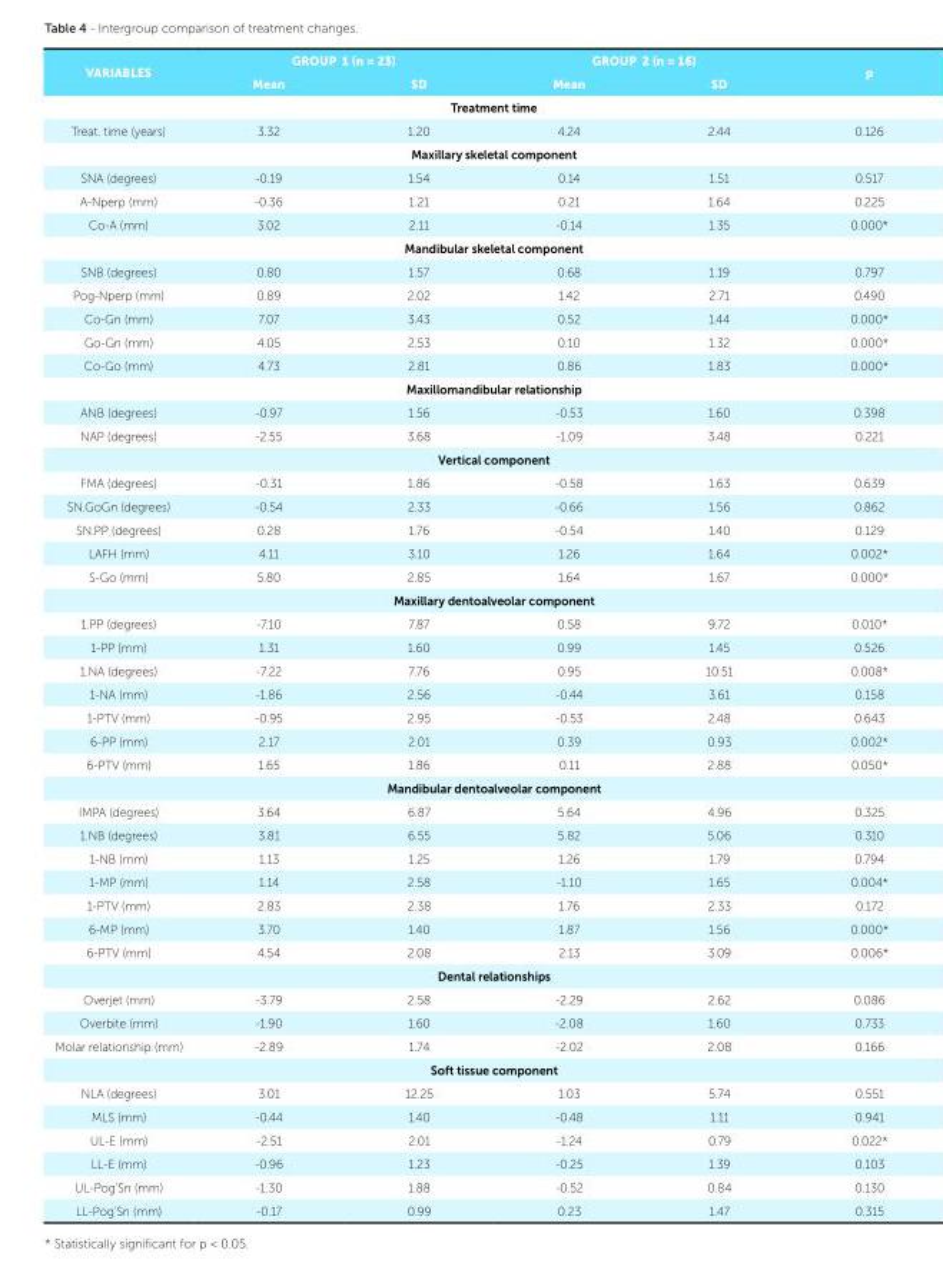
<table><tbody><tr><td rowspan="2">VARIABLES</td><td colspan="2">GROUP 1 (n = 23)</td><td colspan="2">GROUP 2 (n = 16)</td><td rowspan="2">p</td></tr><tr><td>Mean</td><td>SD</td><td>Mean</td><td>SD</td></tr><tr><td colspan="6">Treatment time</td></tr><tr><td>Treat. time (years)</td><td>3.32</td><td>1.20</td><td>4.24</td><td>2.44</td><td>0.126</td></tr><tr><td colspan="6">Maxillary skeletal component</td></tr><tr><td>SNA (degrees)</td><td>-0.19</td><td>1.54</td><td>0.14</td><td>1.51</td><td>0.517</td></tr><tr><td>A-Nperp (mm)</td><td>-0.36</td><td>1.21</td><td>0.21</td><td>1.64</td><td>0.225</td></tr><tr><td>Co-A (mm)</td><td>3.02</td><td>2.11</td><td>-0.14</td><td>1.35</td><td>0.000*</td></tr><tr><td colspan="6">Mandibular skeletal component</td></tr><tr><td>SNB (degrees)</td><td>0.80</td><td>1.57</td><td>0.68</td><td>1.19</td><td>0.797</td></tr><tr><td>Pog-Nperp (mm)</td><td>0.89</td><td>2.02</td><td>1.42</td><td>2.71</td><td>0.490</td></tr><tr><td>Co-Gn (mm)</td><td>7.07</td><td>3.43</td><td>0.52</td><td>1.44</td><td>0.000*</td></tr><tr><td>Go-Gn (mm)</td><td>4.05</td><td>2.53</td><td>0.10</td><td>1.32</td><td>0.000*</td></tr><tr><td>Co-Go (mm)</td><td>4.73</td><td>2.81</td><td>0.86</td><td>1.83</td><td>0.000*</td></tr><tr><td colspan="6">Maxillomandibular relationship</td></tr><tr><td>ANB (degrees)</td><td>-0.97</td><td>1.56</td><td>-0.53</td><td>1.60</td><td>0.398</td></tr><tr><td>NAP (degrees)</td><td>-2.55</td><td>3.68</td><td>-1.09</td><td>3.48</td><td>0.221</td></tr><tr><td colspan="6">Vertical component</td></tr><tr><td>FMA (degrees)</td><td>-0.31</td><td>1.86</td><td>-0.58</td><td>1.63</td><td>0.639</td></tr><tr><td>SN.GoGn (degrees)</td><td>-0.54</td><td>2.33</td><td>-0.66</td><td>1.56</td><td>0.862</td></tr><tr><td>SN.PP (degrees)</td><td>0.28</td><td>1.76</td><td>-0.54</td><td>1.40</td><td>0.129</td></tr><tr><td>LAFH (mm)</td><td>4.11</td><td>3.10</td><td>1.26</td><td>1.64</td><td>0.002*</td></tr><tr><td>S-Go (mm)</td><td>5.80</td><td>2.85</td><td>1.64</td><td>1.67</td><td>0.000*</td></tr><tr><td colspan="6">Maxillary dentoalveolar component</td></tr><tr><td>1.PP (degrees)</td><td>-7.10</td><td>7.87</td><td>0.58</td><td>9.72</td><td>0.010*</td></tr><tr><td>1-PP (mm)</td><td>1.31</td><td>1.60</td><td>0.99</td><td>1.45</td><td>0.526</td></tr><tr><td>1.NA (degrees)</td><td>-7.22</td><td>7.76</td><td>0.95</td><td>10.51</td><td>0.008*</td></tr><tr><td>1-NA (mm)</td><td>-1.86</td><td>2.56</td><td>-0.44</td><td>3.61</td><td>0.158</td></tr><tr><td>1-PTV (mm)</td><td>-0.95</td><td>2.95</td><td>-0.53</td><td>2.48</td><td>0.643</td></tr><tr><td>6-PP (mm)</td><td>2.17</td><td>2.01</td><td>0.39</td><td>0.93</td><td>0.002*</td></tr><tr><td>6-PTV (mm)</td><td>1.65</td><td>1.86</td><td>0.11</td><td>2.88</td><td>0.050*</td></tr><tr><td colspan="6">Mandibular dentoalveolar component</td></tr><tr><td>IMPA (degrees)</td><td>3.64</td><td>6.87</td><td>5.64</td><td>4.96</td><td>0.325</td></tr><tr><td>1.NB (degrees)</td><td>3.81</td><td>6.55</td><td>5.82</td><td>5.06</td><td>0.310</td></tr><tr><td>1-NB (mm)</td><td>1.13</td><td>1.25</td><td>1.26</td><td>1.79</td><td>0.794</td></tr><tr><td>1-MP (mm)</td><td>1.14</td><td>2.58</td><td>-1.10</td><td>1.65</td><td>0.004*</td></tr><tr><td>1-PTV (mm)</td><td>2.83</td><td>2.38</td><td>1.76</td><td>2.33</td><td>0.172</td></tr><tr><td>6-MP (mm)</td><td>3.70</td><td>1.40</td><td>1.87</td><td>1.56</td><td>0.000*</td></tr><tr><td>6-PTV (mm)</td><td>4.54</td><td>2.08</td><td>2.13</td><td>3.09</td><td>0.006*</td></tr><tr><td colspan="6">Dental relationships</td></tr><tr><td>Overjet (mm)</td><td>-3.79</td><td>2.58</td><td>-2.29</td><td>2.62</td><td>0.086</td></tr><tr><td>Overbite (mm)</td><td>-1.90</td><td>1.60</td><td>-2.08</td><td>1.60</td><td>0.733</td></tr><tr><td>Molar relationship (mm)</td><td>-2.89</td><td>1.74</td><td>-2.02</td><td>2.08</td><td>0.166</td></tr><tr><td colspan="6">Soft tissue component</td></tr><tr><td>NLA (degrees)</td><td>3.01</td><td>12.25</td><td>1.03</td><td>5.74</td><td>0.551</td></tr><tr><td>MLS (mm)</td><td>-0.44</td><td>1.40</td><td>-0.48</td><td>1.11</td><td>0.941</td></tr><tr><td>UL-E (mm)</td><td>-2.51</td><td>2.01</td><td>-1.24</td><td>0.79</td><td>0.022*</td></tr><tr><td>LL-E (mm)</td><td>-0.96</td><td>1.23</td><td>-0.25</td><td>1.39</td><td>0.103</td></tr><tr><td>UL-Pog’Sn (mm)</td><td>-1.30</td><td>1.88</td><td>-0.52</td><td>0.84</td><td>0.130</td></tr><tr><td>LL-Pog’Sn (mm)</td><td>-0.17</td><td>0.99</td><td>0.23</td><td>1.47</td><td>0.315</td></tr></tbody></table>